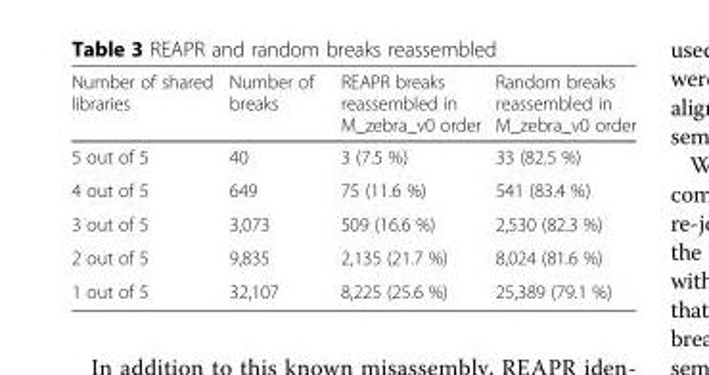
<table><thead><tr><td>Number of shared libraries</td><td>Number of breaks</td><td>REAPR breaks reassembled in M_zebra_v0 order</td><td>Random breaks reassembled in M_zebra_v0 order</td></tr></thead><tbody><tr><td>5 out of 5</td><td>40</td><td>3 (7.5 %)</td><td>33 (82.5 %)</td></tr><tr><td>4 out of 5</td><td>649</td><td>75 (11.6 %)</td><td>541 (83.4 %)</td></tr><tr><td>3 out of 5</td><td>3,073</td><td>509 (16.6 %)</td><td>2,530 (82.3 %)</td></tr><tr><td>2 out of 5</td><td>9,835</td><td>2,135 (21.7 %)</td><td>8,024 (81.6 %)</td></tr><tr><td>1 out of 5</td><td>32,107</td><td>8,225 (25.6 %)</td><td>25,389 (79.1 %)</td></tr></tbody></table>